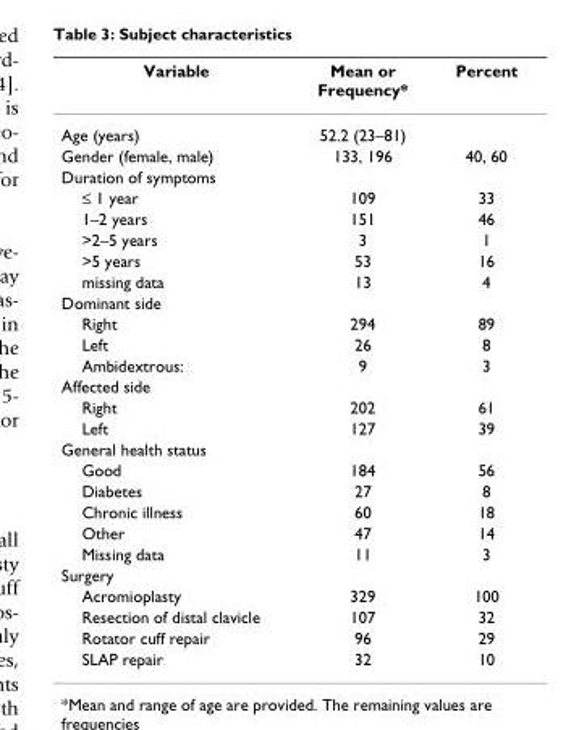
<table><thead><tr><td>Variable</td><td>Mean or Frequency*</td><td>Percent</td></tr></thead><tbody><tr><td>Age (years)</td><td>52.2 (23–81)</td><td></td></tr><tr><td>Gender (female, male)</td><td>133, 196</td><td>40, 60</td></tr><tr><td colspan="3">Duration of symptoms</td></tr><tr><td>≤ 1 year</td><td>109</td><td>33</td></tr><tr><td>1–2 years</td><td>151</td><td>46</td></tr><tr><td>&gt;2–5 years</td><td>3</td><td>1</td></tr><tr><td>&gt;5 years</td><td>53</td><td>16</td></tr><tr><td>missing data</td><td>13</td><td>4</td></tr><tr><td colspan="3">Dominant side</td></tr><tr><td>Right</td><td>294</td><td>89</td></tr><tr><td>Left</td><td>26</td><td>8</td></tr><tr><td>Ambidextrous:</td><td>9</td><td>3</td></tr><tr><td colspan="3">Affected side</td></tr><tr><td>Right</td><td>202</td><td>61</td></tr><tr><td>Left</td><td>127</td><td>39</td></tr><tr><td colspan="3">General health status</td></tr><tr><td>Good</td><td>184</td><td>56</td></tr><tr><td>Diabetes</td><td>27</td><td>8</td></tr><tr><td>Chronic illness</td><td>60</td><td>18</td></tr><tr><td>Other</td><td>47</td><td>14</td></tr><tr><td>Missing data</td><td>11</td><td>3</td></tr><tr><td colspan="3">Surgery</td></tr><tr><td>Acromioplasty</td><td>329</td><td>100</td></tr><tr><td>Resection of distal clavicle</td><td>107</td><td>32</td></tr><tr><td>Rotator cuff repair</td><td>96</td><td>29</td></tr><tr><td>SLAP repair</td><td>32</td><td>10</td></tr></tbody></table>